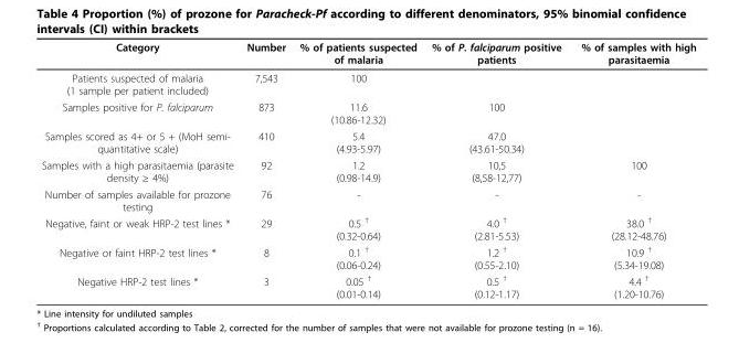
<table><thead><tr><td>Category</td><td>Number</td><td>% of patients suspected of malaria</td><td>% of P. falciparum positive patients</td><td>% of samples with high parasitaemia</td></tr></thead><tbody><tr><td>Patients suspected of malaria (1 sample per patient included)</td><td>7,543</td><td>100</td><td></td><td></td></tr><tr><td>Samples positive for P. falciparum</td><td>873</td><td>11.6 (10.86-12.32)</td><td>100</td><td></td></tr><tr><td>Samples scored as 4+ or 5 + (MoH semi- quantitative scale)</td><td>410</td><td>5.4 (4.93-5.97)</td><td>47.0 (43.61-50.34)</td><td></td></tr><tr><td>Samples with a high parasitaemia (parasite density ≥ 4%)</td><td>92</td><td>1.2 (0.98-14.9)</td><td>10,5 (8,58-12,77)</td><td>100</td></tr><tr><td>Number of samples available for prozone testing</td><td>76</td><td>-</td><td>-</td><td>-</td></tr><tr><td>Negative, faint or weak HRP-2 test lines *</td><td>29</td><td>0.5 <sup>†</sup> (0.32-0.64)</td><td>4.0 <sup>†</sup> (2.81-5.53)</td><td>38.0 <sup>†</sup> (28.12-48.76)</td></tr><tr><td>Negative or faint HRP-2 test lines *</td><td>8</td><td>0.1 <sup>†</sup> (0.06-0.24)</td><td>1.2 <sup>†</sup> (0.55-2.10)</td><td>10.9 <sup>†</sup> (5.34-19.08)</td></tr><tr><td>Negative HRP-2 test lines *</td><td>3</td><td>0.05 <sup>†</sup> (0.01-0.14)</td><td>0.5 <sup>†</sup> (0.12-1.17)</td><td>4.4 <sup>†</sup> (1.20-10.76)</td></tr></tbody></table>